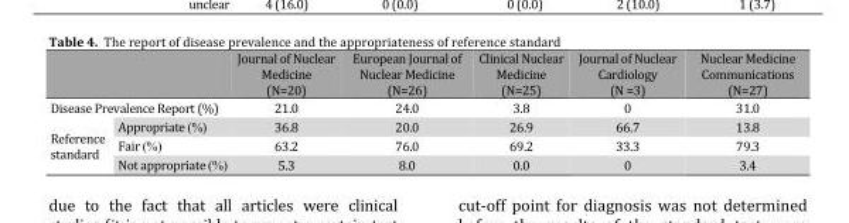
<table><thead><tr><td></td><td></td><td>Journal of Nuclear Medicine (N=20)</td><td>European Journal of Nuclear Medicine (N=26)</td><td>Clinical Nuclear Medicine (N=25)</td><td>Journal of Nuclear Cardiology (N =3)</td><td>Nuclear Medicine Communications (N=27)</td></tr></thead><tbody><tr><td colspan="2">Disease Prevalence Report (%)</td><td>21.0</td><td>24.0</td><td>3.8</td><td>0</td><td>31.0</td></tr><tr><td rowspan="3">Reference standard</td><td>Appropriate (%)</td><td>36.8</td><td>20.0</td><td>26.9</td><td>66.7</td><td>13.8</td></tr><tr><td>Fair (%)</td><td>63.2</td><td>76.0</td><td>69.2</td><td>33.3</td><td>79.3</td></tr><tr><td>Not appropriate (%)</td><td>5.3</td><td>8.0</td><td>0.0</td><td>0</td><td>3.4</td></tr></tbody></table>